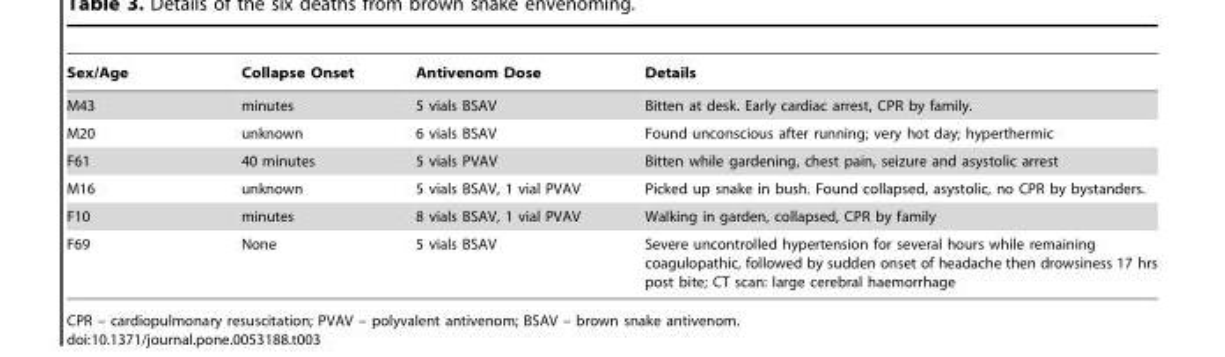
<table><thead><tr><td>Sex/Age</td><td>Collapse Onset</td><td>Antivenom Dose</td><td>Details</td></tr></thead><tbody><tr><td>M43</td><td>minutes</td><td>5 vials BSAV</td><td>Bitten at desk. Early cardiac arrest, CPR by family.</td></tr><tr><td>M20</td><td>unknown</td><td>6 vials BSAV</td><td>Found unconscious after running; very hot day; hyperthermic</td></tr><tr><td>F61</td><td>40 minutes</td><td>5 vials PVAV</td><td>Bitten while gardening, chest pain, seizure and asystolic arrest</td></tr><tr><td>M16</td><td>unknown</td><td>5 vials BSAV, 1 vial PVAV</td><td>Picked up snake in bush. Found collapsed, asystolic, no CPR by bystanders.</td></tr><tr><td>F10</td><td>minutes</td><td>8 vials BSAV, 1 vial PVAV</td><td>Walking in garden, collapsed, CPR by family</td></tr><tr><td>F69</td><td>None</td><td>5 vials BSAV</td><td>Severe uncontrolled hypertension for several hours while remaining coagulopathic, followed by sudden onset of headache then drowsiness 17 hrs post bite; CT scan: large cerebral haemorrhage</td></tr></tbody></table>